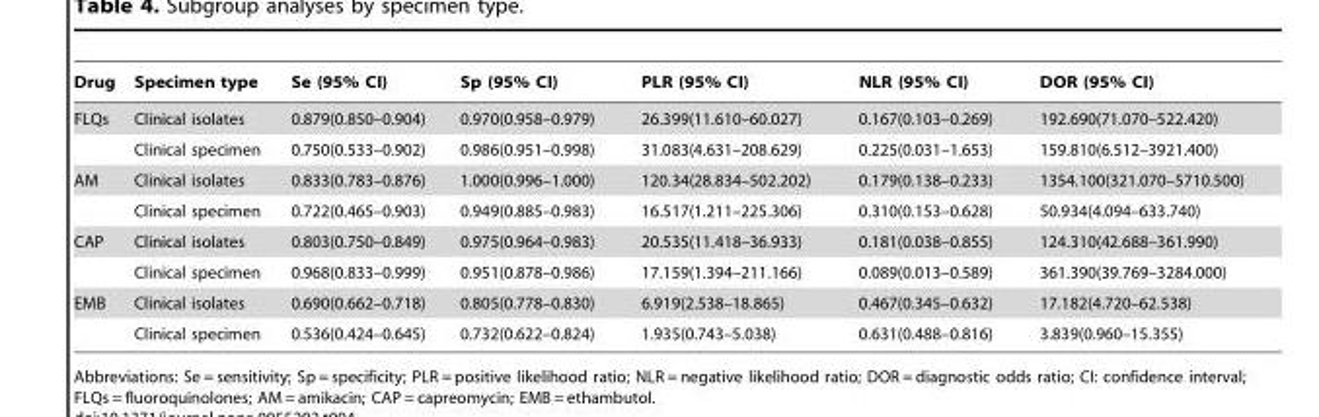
<table><thead><tr><td>Drug</td><td>Specimen type</td><td>Se (95% CI)</td><td>Sp (95% CI)</td><td>PLR (95% CI)</td><td>NLR (95% CI)</td><td>DOR (95% CI)</td></tr></thead><tbody><tr><td rowspan="2">FLQs</td><td>Clinical isolates</td><td>0.879(0.850–0.904)</td><td>0.970(0.958–0.979)</td><td>26.399(11.610–60.027)</td><td>0.167(0.103–0.269)</td><td>192.690(71.070–522.420)</td></tr><tr><td>Clinical specimen</td><td>0.750(0.533–0.902)</td><td>0.986(0.951–0.998)</td><td>31.083(4.631–208.629)</td><td>0.225(0.031–1.653)</td><td>159.810(6.512–3921.400)</td></tr><tr><td rowspan="2">AM</td><td>Clinical isolates</td><td>0.833(0.783–0.876)</td><td>1.000(0.996–1.000)</td><td>120.34(28.834–502.202)</td><td>0.179(0.138–0.233)</td><td>1354.100(321.070–5710.500)</td></tr><tr><td>Clinical specimen</td><td>0.722(0.465–0.903)</td><td>0.949(0.885–0.983)</td><td>16.517(1.211–225.306)</td><td>0.310(0.153–0.628)</td><td>50.934(4.094–633.740)</td></tr><tr><td rowspan="2">CAP</td><td>Clinical isolates</td><td>0.803(0.750–0.849)</td><td>0.975(0.964–0.983)</td><td>20.535(11.418–36.933)</td><td>0.181(0.038–0.855)</td><td>124.310(42.688–361.990)</td></tr><tr><td>Clinical specimen</td><td>0.968(0.833–0.999)</td><td>0.951(0.878–0.986)</td><td>17.159(1.394–211.166)</td><td>0.089(0.013–0.589)</td><td>361.390(39.769–3284.000)</td></tr><tr><td rowspan="2">EMB</td><td>Clinical isolates</td><td>0.690(0.662–0.718)</td><td>0.805(0.778–0.830)</td><td>6.919(2.538–18.865)</td><td>0.467(0.345–0.632)</td><td>17.182(4.720–62.538)</td></tr><tr><td>Clinical specimen</td><td>0.536(0.424–0.645)</td><td>0.732(0.622–0.824)</td><td>1.935(0.743–5.038)</td><td>0.631(0.488–0.816)</td><td>3.839(0.960–15.355)</td></tr></tbody></table>